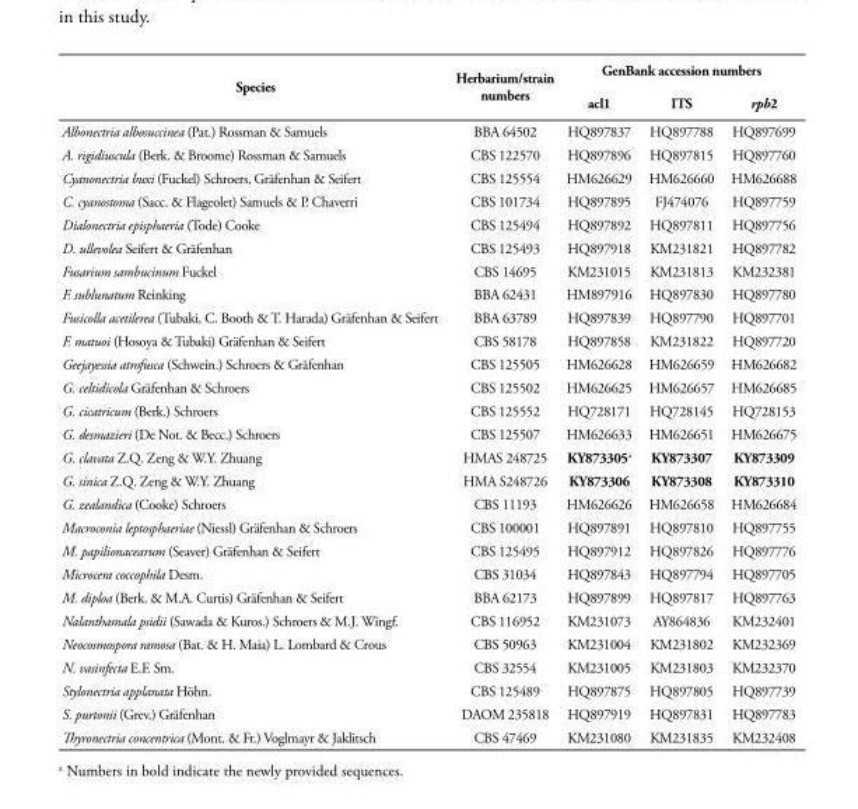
<table><thead><tr><td rowspan="2">Species</td><td rowspan="2">Herbarium/strain numbers</td><td colspan="3">GenBank accession numbers</td></tr><tr><td>acl1</td><td>ITS</td><td>rpb2</td></tr></thead><tbody><tr><td>Albonectria albosuccinea (Pat.) Rossman &amp; Samuels</td><td>BBA 64502</td><td>HQ897837</td><td>HQ897788</td><td>HQ897699</td></tr><tr><td>A. rigidiuscula (Berk. &amp; Broome) Rossman &amp; Samuels</td><td>CBS 122570</td><td>HQ897896</td><td>HQ897815</td><td>HQ897760</td></tr><tr><td>Cyanonectria buxi (Fuckel) Schroers, Gräfenhan &amp; Seifert</td><td>CBS 125554</td><td>HM626629</td><td>HM626660</td><td>HM626688</td></tr><tr><td>C. cyanostoma (Sacc. &amp; Flageolet) Samuels &amp; P. Chaverri</td><td>CBS 101734</td><td>HQ897895</td><td>FJ474076</td><td>HQ897759</td></tr><tr><td>Dialonectria episphaeria (Tode) Cooke</td><td>CBS 125494</td><td>HQ897892</td><td>HQ897811</td><td>HQ897756</td></tr><tr><td>D. ullevolea Seifert &amp; Gräfenhan</td><td>CBS 125493</td><td>HQ897918</td><td>KM231821</td><td>HQ897782</td></tr><tr><td>Fusarium sambucinum Fuckel</td><td>CBS 14695</td><td>KM231015</td><td>KM231813</td><td>KM232381</td></tr><tr><td>F. sublunatum Reinking</td><td>BBA 62431</td><td>HM897916</td><td>HQ897830</td><td>HQ897780</td></tr><tr><td>Fusicolla acetilerea (Tubaki, C. Booth &amp; T. Harada) Gräfenhan &amp; Seifert</td><td>BBA 63789</td><td>HQ897839</td><td>HQ897790</td><td>HQ897701</td></tr><tr><td>F. matuoi (Hosoya &amp; Tubaki) Gräfenhan &amp; Seifert</td><td>CBS 58178</td><td>HQ897858</td><td>KM231822</td><td>HQ897720</td></tr><tr><td>Geejayessia atrofusca (Schwein.) Schroers &amp; Gräfenhan</td><td>CBS 125505</td><td>HM626628</td><td>HM626659</td><td>HM626682</td></tr><tr><td>G. celtidicola Gräfenhan &amp; Schroers</td><td>CBS 125502</td><td>HM626625</td><td>HM626657</td><td>HM626685</td></tr><tr><td>G. cicatricum (Berk.) Schroers</td><td>CBS 125552</td><td>HQ728171</td><td>HQ728145</td><td>HQ728153</td></tr><tr><td>G. desmazieri (De Not. &amp; Becc.) Schroers</td><td>CBS 125507</td><td>HM626633</td><td>HM626651</td><td>HM626675</td></tr><tr><td>G. clavata Z.Q. Zeng &amp; W.Y. Zhuang</td><td>HMAS 248725</td><td>KY873305<sup>a</sup></td><td>KY873307</td><td>KY873309</td></tr><tr><td>G. sinica Z.Q. Zeng &amp; W.Y. Zhuang</td><td>HMA S248726</td><td>KY873306</td><td>KY873308</td><td>KY873310</td></tr><tr><td>G. zealandica (Cooke) Schroers</td><td>CBS 11193</td><td>HM626626</td><td>HM626658</td><td>HM626684</td></tr><tr><td>Macroconia leptosphaeriae (Niessl) Gräfenhan &amp; Schroers</td><td>CBS 100001</td><td>HQ897891</td><td>HQ897810</td><td>HQ897755</td></tr><tr><td>M. papilionacearum (Seaver) Gräfenhan &amp; Seifert</td><td>CBS 125495</td><td>HQ897912</td><td>HQ897826</td><td>HQ897776</td></tr><tr><td>Microcera coccophila Desm.</td><td>CBS 31034</td><td>HQ897843</td><td>HQ897794</td><td>HQ897705</td></tr><tr><td>M. diploa (Berk. &amp; M.A. Curtis) Gräfenhan &amp; Seifert</td><td>BBA 62173</td><td>HQ897899</td><td>HQ897817</td><td>HQ897763</td></tr><tr><td>Nalanthamala psidii (Sawada &amp; Kuros.) Schroers &amp; M.J. Wingf.</td><td>CBS 116952</td><td>KM231073</td><td>AY864836</td><td>KM232401</td></tr><tr><td>Neocosmospora ramosa (Bat. &amp; H. Maia) L. Lombard &amp; Crous</td><td>CBS 50963</td><td>KM231004</td><td>KM231802</td><td>KM232369</td></tr><tr><td>N. vasinfecta E.F. Sm.</td><td>CBS 32554</td><td>KM231005</td><td>KM231803</td><td>KM232370</td></tr><tr><td>Stylonectria applanata Höhn.</td><td>CBS 125489</td><td>HQ897875</td><td>HQ897805</td><td>HQ897739</td></tr><tr><td>S. purtonii (Grev.) Gräfenhan</td><td>DAOM 235818</td><td>HQ897919</td><td>HQ897831</td><td>HQ897783</td></tr><tr><td>Thyronectria concentrica (Mont. &amp; Fr.) Voglmayr &amp; Jaklitsch</td><td>CBS 47469</td><td>KM231080</td><td>KM231835</td><td>KM232408</td></tr></tbody></table>